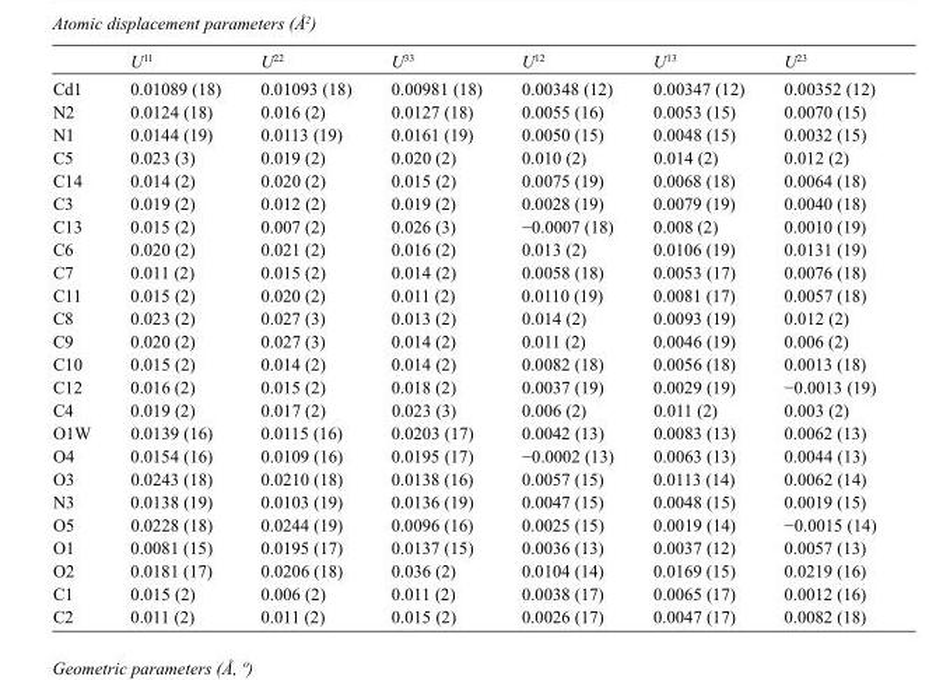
<table><thead><tr><td></td><td>U<sup>11</sup></td><td>U<sup>22</sup></td><td>U<sup>33</sup></td><td>U<sup>12</sup></td><td>U<sup>13</sup></td><td>U<sup>23</sup></td></tr></thead><tbody><tr><td>Cd1</td><td>0.01089 (18)</td><td>0.01093 (18)</td><td>0.00981 (18)</td><td>0.00348 (12)</td><td>0.00347 (12)</td><td>0.00352 (12)</td></tr><tr><td>N2</td><td>0.0124 (18)</td><td>0.016 (2)</td><td>0.0127 (18)</td><td>0.0055 (16)</td><td>0.0053 (15)</td><td>0.0070 (15)</td></tr><tr><td>N1</td><td>0.0144 (19)</td><td>0.0113 (19)</td><td>0.0161 (19)</td><td>0.0050 (15)</td><td>0.0048 (15)</td><td>0.0032 (15)</td></tr><tr><td>C5</td><td>0.023 (3)</td><td>0.019 (2)</td><td>0.020 (2)</td><td>0.010 (2)</td><td>0.014 (2)</td><td>0.012 (2)</td></tr><tr><td>C14</td><td>0.014 (2)</td><td>0.020 (2)</td><td>0.015 (2)</td><td>0.0075 (19)</td><td>0.0068 (18)</td><td>0.0064 (18)</td></tr><tr><td>C3</td><td>0.019 (2)</td><td>0.012 (2)</td><td>0.019 (2)</td><td>0.0028 (19)</td><td>0.0079 (19)</td><td>0.0040 (18)</td></tr><tr><td>C13</td><td>0.015 (2)</td><td>0.007 (2)</td><td>0.026 (3)</td><td>−0.0007 (18)</td><td>0.008 (2)</td><td>0.0010 (19)</td></tr><tr><td>C6</td><td>0.020 (2)</td><td>0.021 (2)</td><td>0.016 (2)</td><td>0.013 (2)</td><td>0.0106 (19)</td><td>0.0131 (19)</td></tr><tr><td>C7</td><td>0.011 (2)</td><td>0.015 (2)</td><td>0.014 (2)</td><td>0.0058 (18)</td><td>0.0053 (17)</td><td>0.0076 (18)</td></tr><tr><td>C11</td><td>0.015 (2)</td><td>0.020 (2)</td><td>0.011 (2)</td><td>0.0110 (19)</td><td>0.0081 (17)</td><td>0.0057 (18)</td></tr><tr><td>C8</td><td>0.023 (2)</td><td>0.027 (3)</td><td>0.013 (2)</td><td>0.014 (2)</td><td>0.0093 (19)</td><td>0.012 (2)</td></tr><tr><td>C9</td><td>0.020 (2)</td><td>0.027 (3)</td><td>0.014 (2)</td><td>0.011 (2)</td><td>0.0046 (19)</td><td>0.006 (2)</td></tr><tr><td>C10</td><td>0.015 (2)</td><td>0.014 (2)</td><td>0.014 (2)</td><td>0.0082 (18)</td><td>0.0056 (18)</td><td>0.0013 (18)</td></tr><tr><td>C12</td><td>0.016 (2)</td><td>0.015 (2)</td><td>0.018 (2)</td><td>0.0037 (19)</td><td>0.0029 (19)</td><td>−0.0013 (19)</td></tr><tr><td>C4</td><td>0.019 (2)</td><td>0.017 (2)</td><td>0.023 (3)</td><td>0.006 (2)</td><td>0.011 (2)</td><td>0.003 (2)</td></tr><tr><td>O1W</td><td>0.0139 (16)</td><td>0.0115 (16)</td><td>0.0203 (17)</td><td>0.0042 (13)</td><td>0.0083 (13)</td><td>0.0062 (13)</td></tr><tr><td>O4</td><td>0.0154 (16)</td><td>0.0109 (16)</td><td>0.0195 (17)</td><td>−0.0002 (13)</td><td>0.0063 (13)</td><td>0.0044 (13)</td></tr><tr><td>O3</td><td>0.0243 (18)</td><td>0.0210 (18)</td><td>0.0138 (16)</td><td>0.0057 (15)</td><td>0.0113 (14)</td><td>0.0062 (14)</td></tr><tr><td>N3</td><td>0.0138 (19)</td><td>0.0103 (19)</td><td>0.0136 (19)</td><td>0.0047 (15)</td><td>0.0048 (15)</td><td>0.0019 (15)</td></tr><tr><td>O5</td><td>0.0228 (18)</td><td>0.0244 (19)</td><td>0.0096 (16)</td><td>0.0025 (15)</td><td>0.0019 (14)</td><td>−0.0015 (14)</td></tr><tr><td>O1</td><td>0.0081 (15)</td><td>0.0195 (17)</td><td>0.0137 (15)</td><td>0.0036 (13)</td><td>0.0037 (12)</td><td>0.0057 (13)</td></tr><tr><td>O2</td><td>0.0181 (17)</td><td>0.0206 (18)</td><td>0.036 (2)</td><td>0.0104 (14)</td><td>0.0169 (15)</td><td>0.0219 (16)</td></tr><tr><td>C1</td><td>0.015 (2)</td><td>0.006 (2)</td><td>0.011 (2)</td><td>0.0038 (17)</td><td>0.0065 (17)</td><td>0.0012 (16)</td></tr><tr><td>C2</td><td>0.011 (2)</td><td>0.011 (2)</td><td>0.015 (2)</td><td>0.0026 (17)</td><td>0.0047 (17)</td><td>0.0082 (18)</td></tr></tbody></table>